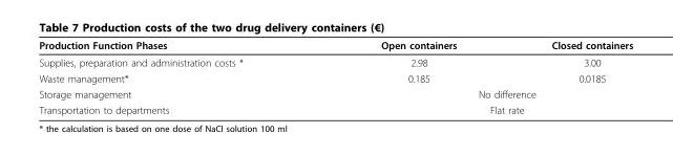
<table><thead><tr><td>Production Function Phases</td><td>Open containers</td><td>Closed containers</td></tr></thead><tbody><tr><td>Supplies, preparation and administration costs *</td><td>2.98</td><td>3.00</td></tr><tr><td>Waste management*</td><td>0.185</td><td>0.0185</td></tr><tr><td>Storage management</td><td colspan="2">No difference</td></tr><tr><td>Transportation to departments</td><td colspan="2">Flat rate</td></tr></tbody></table>